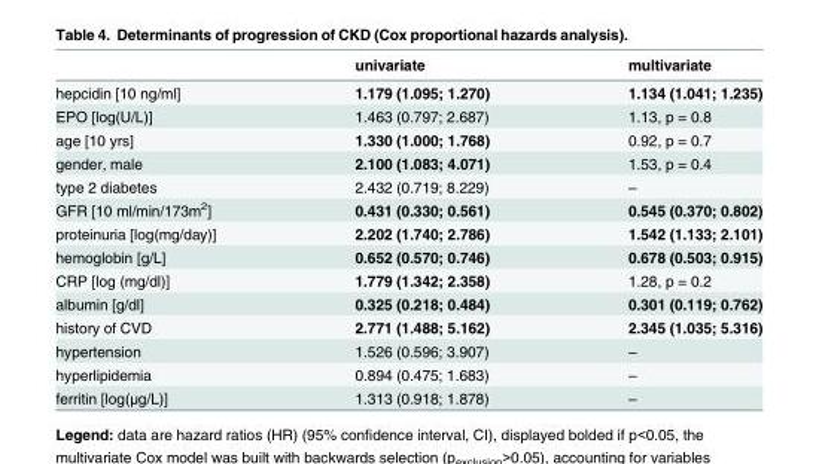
<table><thead><tr><td></td><td>univariate</td><td>multivariate</td></tr></thead><tbody><tr><td>hepcidin [10 ng/ml]</td><td>1.179 (1.095; 1.270)</td><td>1.134 (1.041; 1.235)</td></tr><tr><td>EPO [log(U/L)]</td><td>1.463 (0.797; 2.687)</td><td>1.13, p = 0.8</td></tr><tr><td>age [10 yrs]</td><td>1.330 (1.000; 1.768)</td><td>0.92, p = 0.7</td></tr><tr><td>gender, male</td><td>2.100 (1.083; 4.071)</td><td>1.53, p = 0.4</td></tr><tr><td>type 2 diabetes</td><td>2.432 (0.719; 8.229)</td><td>–</td></tr><tr><td>GFR [10 ml/min/173m<sup>2</sup>]</td><td>0.431 (0.330; 0.561)</td><td>0.545 (0.370; 0.802)</td></tr><tr><td>proteinuria [log(mg/day)]</td><td>2.202 (1.740; 2.786)</td><td>1.542 (1.133; 2.101)</td></tr><tr><td>hemoglobin [g/L]</td><td>0.652 (0.570; 0.746)</td><td>0.678 (0.503; 0.915)</td></tr><tr><td>CRP [log (mg/dl)]</td><td>1.779 (1.342; 2.358)</td><td>1.28, p = 0.2</td></tr><tr><td>albumin [g/dl]</td><td>0.325 (0.218; 0.484)</td><td>0.301 (0.119; 0.762)</td></tr><tr><td>history of CVD</td><td>2.771 (1.488; 5.162)</td><td>2.345 (1.035; 5.316)</td></tr><tr><td>hypertension</td><td>1.526 (0.596; 3.907)</td><td>–</td></tr><tr><td>hyperlipidemia</td><td>0.894 (0.475; 1.683)</td><td>–</td></tr><tr><td>ferritin [log(μg/L)]</td><td>1.313 (0.918; 1.878)</td><td>–</td></tr></tbody></table>